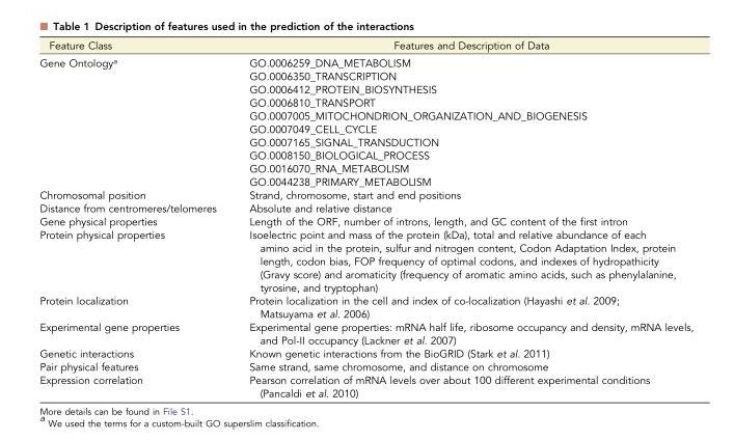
<table><thead><tr><td>Feature Class</td><td>Features and Description of Data</td></tr></thead><tbody><tr><td rowspan="10">Gene Ontology<sup>a</sup></td><td>GO.0006259_DNA_METABOLISM</td></tr><tr><td>GO.0006350_TRANSCRIPTION</td></tr><tr><td>GO.0006412_PROTEIN_BIOSYNTHESIS</td></tr><tr><td>GO.0006810_TRANSPORT</td></tr><tr><td>GO.0007005_MITOCHONDRION_ORGANIZATION_AND_BIOGENESIS</td></tr><tr><td>GO.0007049_CELL_CYCLE</td></tr><tr><td>GO.0007165_SIGNAL_TRANSDUCTION</td></tr><tr><td>GO.0008150_BIOLOGICAL_PROCESS</td></tr><tr><td>GO.0016070_RNA_METABOLISM</td></tr><tr><td>GO.0044238_PRIMARY_METABOLISM</td></tr><tr><td>Chromosomal position</td><td>Strand, chromosome, start and end positions</td></tr><tr><td>Distance from centromeres/telomeres</td><td>Absolute and relative distance</td></tr><tr><td>Gene physical properties</td><td>Length of the ORF, number of introns, length, and GC content of the first intron</td></tr><tr><td>Protein physical properties</td><td>Isoelectric point and mass of the protein (kDa), total and relative abundance of each amino acid in the protein, sulfur and nitrogen content, Codon Adaptation Index, protein length, codon bias, FOP frequency of optimal codons, and indexes of hydropathicity (Gravy score) and aromaticity (frequency of aromatic amino acids, such as phenylalanine, tyrosine, and tryptophan)</td></tr><tr><td>Protein localization</td><td>Protein localization in the cell and index of co-localization (Hayashi et al. 2009; Matsuyama et al. 2006)</td></tr><tr><td>Experimental gene properties</td><td>Experimental gene properties: mRNA half life, ribosome occupancy and density, mRNA levels, and Pol-II occupancy (Lackner et al. 2007)</td></tr><tr><td>Genetic interactions</td><td>Known genetic interactions from the BioGRID (Stark et al. 2011)</td></tr><tr><td>Pair physical features</td><td>Same strand, same chromosome, and distance on chromosome</td></tr><tr><td>Expression correlation</td><td>Pearson correlation of mRNA levels over about 100 different experimental conditions (Pancaldi et al. 2010)</td></tr></tbody></table>